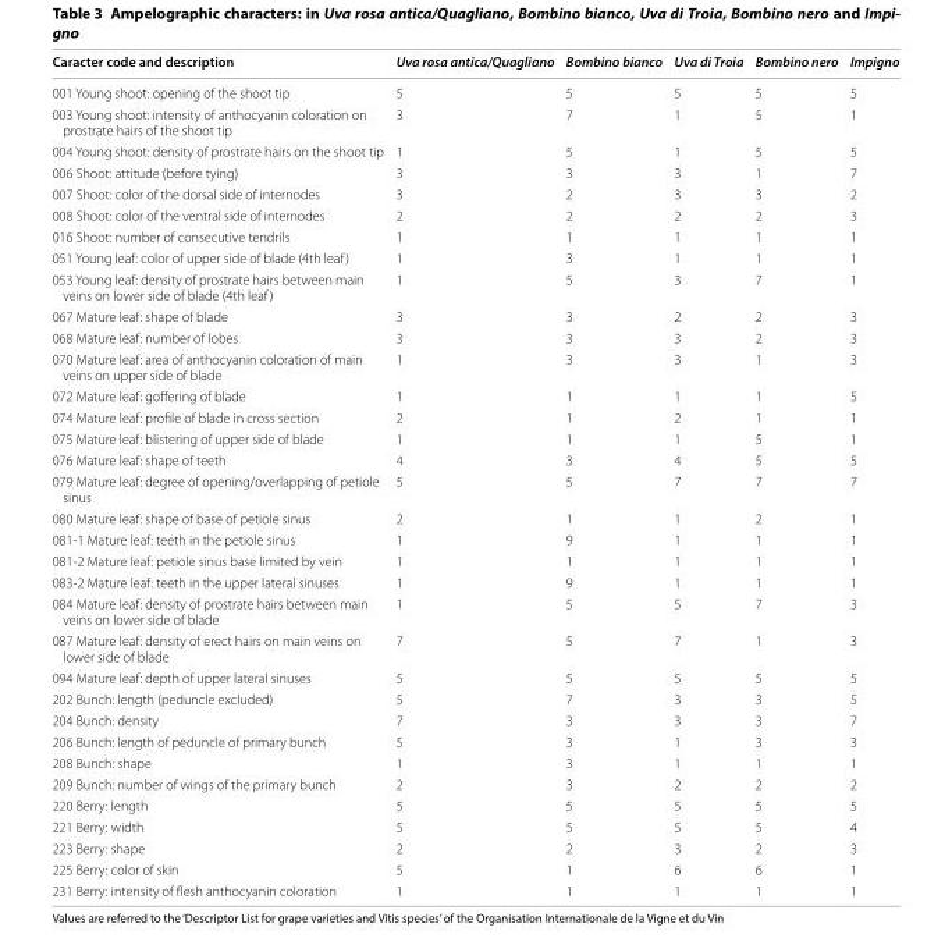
<table><thead><tr><td>Caracter code and description</td><td>Uva rosa antica/Quagliano</td><td>Bombino bianco</td><td>Uva di Troia</td><td>Bombino nero</td><td>Impigno</td></tr></thead><tbody><tr><td>001 Young shoot: opening of the shoot tip</td><td>5</td><td>5</td><td>5</td><td>5</td><td>5</td></tr><tr><td>003 Young shoot: intensity of anthocyanin coloration on prostrate hairs of the shoot tip</td><td>3</td><td>7</td><td>1</td><td>5</td><td>1</td></tr><tr><td>004 Young shoot: density of prostrate hairs on the shoot tip</td><td>1</td><td>5</td><td>1</td><td>5</td><td>5</td></tr><tr><td>006 Shoot: attitude (before tying)</td><td>3</td><td>3</td><td>3</td><td>1</td><td>7</td></tr><tr><td>007 Shoot: color of the dorsal side of internodes</td><td>3</td><td>2</td><td>3</td><td>3</td><td>2</td></tr><tr><td>008 Shoot: color of the ventral side of internodes</td><td>2</td><td>2</td><td>2</td><td>2</td><td>3</td></tr><tr><td>016 Shoot: number of consecutive tendrils</td><td>1</td><td>1</td><td>1</td><td>1</td><td>1</td></tr><tr><td>051 Young leaf: color of upper side of blade (4th leaf)</td><td>1</td><td>3</td><td>1</td><td>1</td><td>1</td></tr><tr><td>053 Young leaf: density of prostrate hairs between main veins on lower side of blade (4th leaf)</td><td>1</td><td>5</td><td>3</td><td>7</td><td>1</td></tr><tr><td>067 Mature leaf: shape of blade</td><td>3</td><td>3</td><td>2</td><td>2</td><td>3</td></tr><tr><td>068 Mature leaf: number of lobes</td><td>3</td><td>3</td><td>3</td><td>2</td><td>3</td></tr><tr><td>070 Mature leaf: area of anthocyanin coloration of main veins on upper side of blade</td><td>1</td><td>3</td><td>3</td><td>1</td><td>3</td></tr><tr><td>072 Mature leaf: goffering of blade</td><td>1</td><td>1</td><td>1</td><td>1</td><td>5</td></tr><tr><td>074 Mature leaf: profile of blade in cross section</td><td>2</td><td>1</td><td>2</td><td>1</td><td>1</td></tr><tr><td>075 Mature leaf: blistering of upper side of blade</td><td>1</td><td>1</td><td>1</td><td>5</td><td>1</td></tr><tr><td>076 Mature leaf: shape of teeth</td><td>4</td><td>3</td><td>4</td><td>5</td><td>5</td></tr><tr><td>079 Mature leaf: degree of opening/overlapping of petiole sinus</td><td>5</td><td>5</td><td>7</td><td>7</td><td>7</td></tr><tr><td>080 Mature leaf: shape of base of petiole sinus</td><td>2</td><td>1</td><td>1</td><td>2</td><td>1</td></tr><tr><td>081-1 Mature leaf: teeth in the petiole sinus</td><td>1</td><td>9</td><td>1</td><td>1</td><td>1</td></tr><tr><td>081-2 Mature leaf: petiole sinus base limited by vein</td><td>1</td><td>1</td><td>1</td><td>1</td><td>1</td></tr><tr><td>083-2 Mature leaf: teeth in the upper lateral sinuses</td><td>1</td><td>9</td><td>1</td><td>1</td><td>1</td></tr><tr><td>084 Mature leaf: density of prostrate hairs between main veins on lower side of blade</td><td>1</td><td>5</td><td>5</td><td>7</td><td>3</td></tr><tr><td>087 Mature leaf: density of erect hairs on main veins on lower side of blade</td><td>7</td><td>5</td><td>7</td><td>1</td><td>3</td></tr><tr><td>094 Mature leaf: depth of upper lateral sinuses</td><td>5</td><td>5</td><td>5</td><td>5</td><td>5</td></tr><tr><td>202 Bunch: length (peduncle excluded)</td><td>5</td><td>7</td><td>3</td><td>3</td><td>5</td></tr><tr><td>204 Bunch: density</td><td>7</td><td>3</td><td>3</td><td>3</td><td>7</td></tr><tr><td>206 Bunch: length of peduncle of primary bunch</td><td>5</td><td>3</td><td>1</td><td>3</td><td>3</td></tr><tr><td>208 Bunch: shape</td><td>1</td><td>3</td><td>1</td><td>1</td><td>1</td></tr><tr><td>209 Bunch: number of wings of the primary bunch</td><td>2</td><td>3</td><td>2</td><td>2</td><td>2</td></tr><tr><td>220 Berry: length</td><td>5</td><td>5</td><td>5</td><td>5</td><td>5</td></tr><tr><td>221 Berry: width</td><td>5</td><td>5</td><td>5</td><td>5</td><td>4</td></tr><tr><td>223 Berry: shape</td><td>2</td><td>2</td><td>3</td><td>2</td><td>3</td></tr><tr><td>225 Berry: color of skin</td><td>5</td><td>1</td><td>6</td><td>6</td><td>1</td></tr><tr><td>231 Berry: intensity of flesh anthocyanin coloration</td><td>1</td><td>1</td><td>1</td><td>1</td><td>1</td></tr></tbody></table>